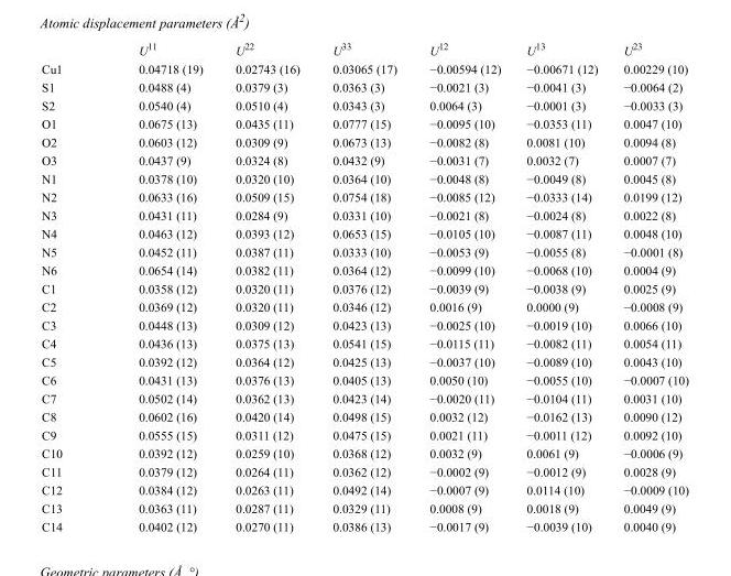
<table><thead><tr><td></td><td>U<sup>11</sup></td><td>U<sup>22</sup></td><td>U<sup>33</sup></td><td>U<sup>12</sup></td><td>U<sup>13</sup></td><td>U<sup>23</sup></td></tr></thead><tbody><tr><td>Cu1</td><td>0.04718 (19)</td><td>0.02743 (16)</td><td>0.03065 (17)</td><td>−0.00594 (12)</td><td>−0.00671 (12)</td><td>0.00229 (10)</td></tr><tr><td>S1</td><td>0.0488 (4)</td><td>0.0379 (3)</td><td>0.0363 (3)</td><td>−0.0021 (3)</td><td>−0.0041 (3)</td><td>−0.0064 (2)</td></tr><tr><td>S2</td><td>0.0540 (4)</td><td>0.0510 (4)</td><td>0.0343 (3)</td><td>0.0064 (3)</td><td>−0.0001 (3)</td><td>−0.0033 (3)</td></tr><tr><td>O1</td><td>0.0675 (13)</td><td>0.0435 (11)</td><td>0.0777 (15)</td><td>−0.0095 (10)</td><td>−0.0353 (11)</td><td>0.0047 (10)</td></tr><tr><td>O2</td><td>0.0603 (12)</td><td>0.0309 (9)</td><td>0.0673 (13)</td><td>−0.0082 (8)</td><td>0.0081 (10)</td><td>0.0094 (8)</td></tr><tr><td>O3</td><td>0.0437 (9)</td><td>0.0324 (8)</td><td>0.0432 (9)</td><td>−0.0031 (7)</td><td>0.0032 (7)</td><td>0.0007 (7)</td></tr><tr><td>N1</td><td>0.0378 (10)</td><td>0.0320 (10)</td><td>0.0364 (10)</td><td>−0.0048 (8)</td><td>−0.0049 (8)</td><td>0.0045 (8)</td></tr><tr><td>N2</td><td>0.0633 (16)</td><td>0.0509 (15)</td><td>0.0754 (18)</td><td>−0.0085 (12)</td><td>−0.0333 (14)</td><td>0.0199 (12)</td></tr><tr><td>N3</td><td>0.0431 (11)</td><td>0.0284 (9)</td><td>0.0331 (10)</td><td>−0.0021 (8)</td><td>−0.0024 (8)</td><td>0.0022 (8)</td></tr><tr><td>N4</td><td>0.0463 (12)</td><td>0.0393 (12)</td><td>0.0653 (15)</td><td>−0.0105 (10)</td><td>−0.0087 (11)</td><td>0.0048 (10)</td></tr><tr><td>N5</td><td>0.0452 (11)</td><td>0.0387 (11)</td><td>0.0333 (10)</td><td>−0.0053 (9)</td><td>−0.0055 (8)</td><td>−0.0001 (8)</td></tr><tr><td>N6</td><td>0.0654 (14)</td><td>0.0382 (11)</td><td>0.0364 (12)</td><td>−0.0099 (10)</td><td>−0.0068 (10)</td><td>0.0004 (9)</td></tr><tr><td>C1</td><td>0.0358 (12)</td><td>0.0320 (11)</td><td>0.0376 (12)</td><td>−0.0039 (9)</td><td>−0.0038 (9)</td><td>0.0025 (9)</td></tr><tr><td>C2</td><td>0.0369 (12)</td><td>0.0320 (11)</td><td>0.0346 (12)</td><td>0.0016 (9)</td><td>0.0000 (9)</td><td>−0.0008 (9)</td></tr><tr><td>C3</td><td>0.0448 (13)</td><td>0.0309 (12)</td><td>0.0423 (13)</td><td>−0.0025 (10)</td><td>−0.0019 (10)</td><td>0.0066 (10)</td></tr><tr><td>C4</td><td>0.0436 (13)</td><td>0.0375 (13)</td><td>0.0541 (15)</td><td>−0.0115 (11)</td><td>−0.0082 (11)</td><td>0.0054 (11)</td></tr><tr><td>C5</td><td>0.0392 (12)</td><td>0.0364 (12)</td><td>0.0425 (13)</td><td>−0.0037 (10)</td><td>−0.0089 (10)</td><td>0.0043 (10)</td></tr><tr><td>C6</td><td>0.0431 (13)</td><td>0.0376 (13)</td><td>0.0405 (13)</td><td>0.0050 (10)</td><td>−0.0055 (10)</td><td>−0.0007 (10)</td></tr><tr><td>C7</td><td>0.0502 (14)</td><td>0.0362 (13)</td><td>0.0423 (14)</td><td>−0.0020 (11)</td><td>−0.0104 (11)</td><td>0.0031 (10)</td></tr><tr><td>C8</td><td>0.0602 (16)</td><td>0.0420 (14)</td><td>0.0498 (15)</td><td>0.0032 (12)</td><td>−0.0162 (13)</td><td>0.0090 (12)</td></tr><tr><td>C9</td><td>0.0555 (15)</td><td>0.0311 (12)</td><td>0.0475 (15)</td><td>0.0021 (11)</td><td>−0.0011 (12)</td><td>0.0092 (10)</td></tr><tr><td>C10</td><td>0.0392 (12)</td><td>0.0259 (10)</td><td>0.0368 (12)</td><td>0.0032 (9)</td><td>0.0061 (9)</td><td>−0.0006 (9)</td></tr><tr><td>C11</td><td>0.0379 (12)</td><td>0.0264 (11)</td><td>0.0362 (12)</td><td>−0.0002 (9)</td><td>−0.0012 (9)</td><td>0.0028 (9)</td></tr><tr><td>C12</td><td>0.0384 (12)</td><td>0.0263 (11)</td><td>0.0492 (14)</td><td>−0.0007 (9)</td><td>0.0114 (10)</td><td>−0.0009 (10)</td></tr><tr><td>C13</td><td>0.0363 (11)</td><td>0.0287 (11)</td><td>0.0329 (11)</td><td>0.0008 (9)</td><td>0.0018 (9)</td><td>0.0049 (9)</td></tr><tr><td>C14</td><td>0.0402 (12)</td><td>0.0270 (11)</td><td>0.0386 (13)</td><td>−0.0017 (9)</td><td>−0.0039 (10)</td><td>0.0040 (9)</td></tr></tbody></table>